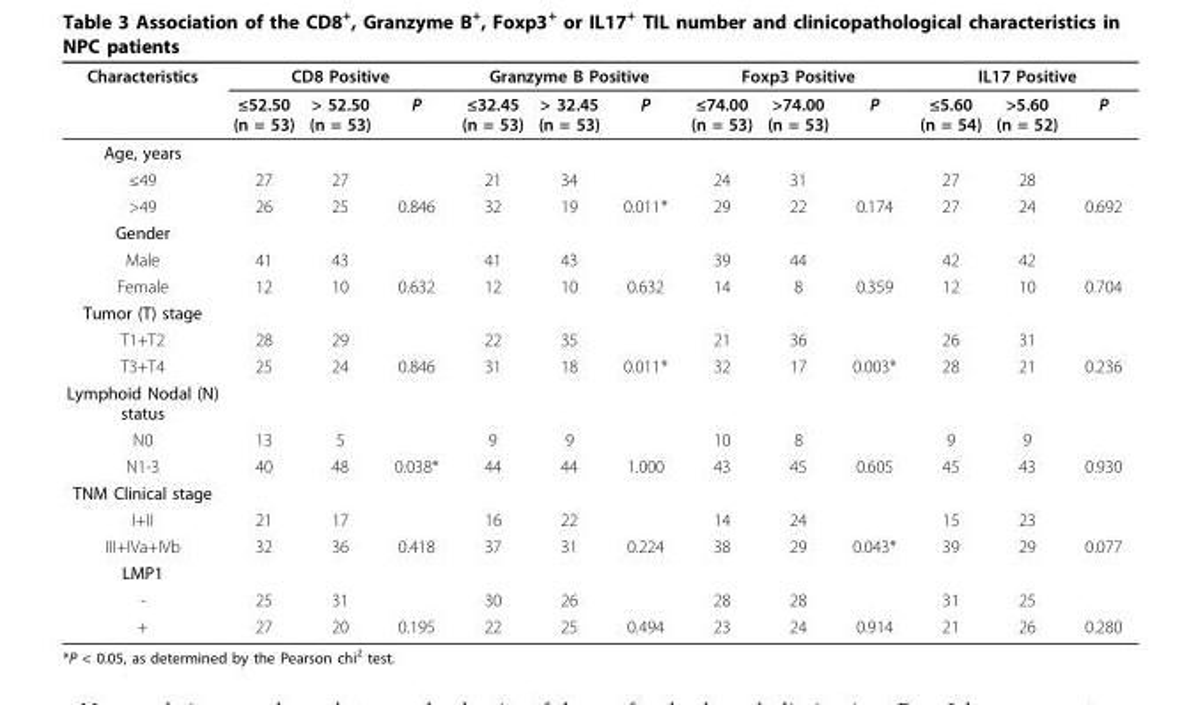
<table><thead><tr><td rowspan="2">Characteristics</td><td colspan="3">CD8 Positive</td><td colspan="3">Granzyme B Positive</td><td colspan="3">Foxp3 Positive</td><td colspan="3">IL17 Positive</td></tr><tr><td>≤52.50 (n = 53)</td><td>&gt; 52.50 (n = 53)</td><td>P</td><td>≤32.45 (n = 53)</td><td>&gt; 32.45 (n = 53)</td><td>P</td><td>≤74.00 (n = 53)</td><td>&gt;74.00 (n = 53)</td><td>P</td><td>≤5.60 (n = 54)</td><td>&gt;5.60 (n = 52)</td><td>P</td></tr></thead><tbody><tr><td colspan="13">Age, years</td></tr><tr><td>≤49</td><td>27</td><td>27</td><td></td><td>21</td><td>34</td><td></td><td>24</td><td>31</td><td></td><td>27</td><td>28</td><td></td></tr><tr><td>&gt;49</td><td>26</td><td>25</td><td>0.846</td><td>32</td><td>19</td><td>0.011*</td><td>29</td><td>22</td><td>0.174</td><td>27</td><td>24</td><td>0.692</td></tr><tr><td colspan="13">Gender</td></tr><tr><td>Male</td><td>41</td><td>43</td><td></td><td>41</td><td>43</td><td></td><td>39</td><td>44</td><td></td><td>42</td><td>42</td><td></td></tr><tr><td>Female</td><td>12</td><td>10</td><td>0.632</td><td>12</td><td>10</td><td>0.632</td><td>14</td><td>8</td><td>0.359</td><td>12</td><td>10</td><td>0.704</td></tr><tr><td colspan="13">Tumor (T) stage</td></tr><tr><td>T1+T2</td><td>28</td><td>29</td><td></td><td>22</td><td>35</td><td></td><td>21</td><td>36</td><td></td><td>26</td><td>31</td><td></td></tr><tr><td>T3+T4</td><td>25</td><td>24</td><td>0.846</td><td>31</td><td>18</td><td>0.011*</td><td>32</td><td>17</td><td>0.003*</td><td>28</td><td>21</td><td>0.236</td></tr><tr><td colspan="13">Lymphoid Nodal (N) status</td></tr><tr><td>N0</td><td>13</td><td>5</td><td></td><td>9</td><td>9</td><td></td><td>10</td><td>8</td><td></td><td>9</td><td>9</td><td></td></tr><tr><td>N1-3</td><td>40</td><td>48</td><td>0.038*</td><td>44</td><td>44</td><td>1.000</td><td>43</td><td>45</td><td>0.605</td><td>45</td><td>43</td><td>0.930</td></tr><tr><td colspan="13">TNM Clinical stage</td></tr><tr><td>I+II</td><td>21</td><td>17</td><td></td><td>16</td><td>22</td><td></td><td>14</td><td>24</td><td></td><td>15</td><td>23</td><td></td></tr><tr><td>III+IVa+IVb</td><td>32</td><td>36</td><td>0.418</td><td>37</td><td>31</td><td>0.224</td><td>38</td><td>29</td><td>0.043*</td><td>39</td><td>29</td><td>0.077</td></tr><tr><td colspan="13">LMP1</td></tr><tr><td>-</td><td>25</td><td>31</td><td></td><td>30</td><td>26</td><td></td><td>28</td><td>28</td><td></td><td>31</td><td>25</td><td></td></tr><tr><td>+</td><td>27</td><td>20</td><td>0.195</td><td>22</td><td>25</td><td>0.494</td><td>23</td><td>24</td><td>0.914</td><td>21</td><td>26</td><td>0.280</td></tr></tbody></table>